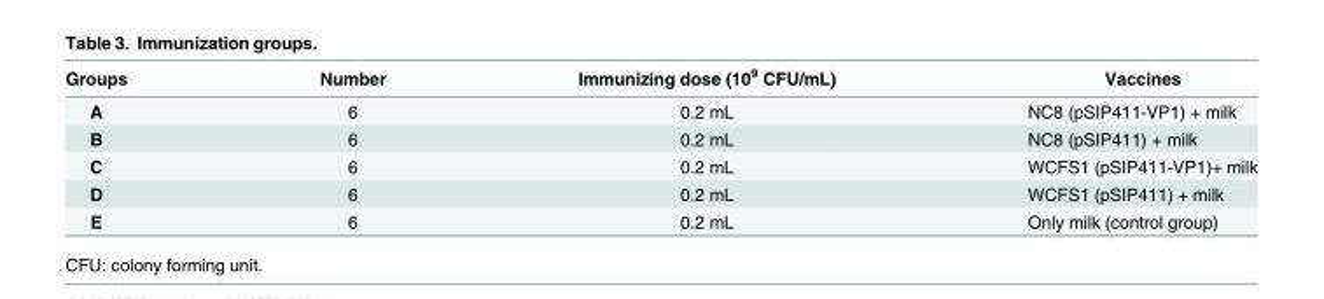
<table><thead><tr><td>Groups</td><td>Number</td><td>Immunizing dose (10<sup>9</sup> CFU/mL)</td><td>Vaccines</td></tr></thead><tbody><tr><td>A</td><td>6</td><td>0.2 mL</td><td>NC8 (pSIP411-VP1) + milk</td></tr><tr><td>B</td><td>6</td><td>0.2 mL</td><td>NC8 (pSIP411) + milk</td></tr><tr><td>C</td><td>6</td><td>0.2 mL</td><td>WCFS1 (pSIP411-VP1)+ milk</td></tr><tr><td>D</td><td>6</td><td>0.2 mL</td><td>WCFS1 (pSIP411) + milk</td></tr><tr><td>E</td><td>6</td><td>0.2 mL</td><td>Only milk (control group)</td></tr></tbody></table>